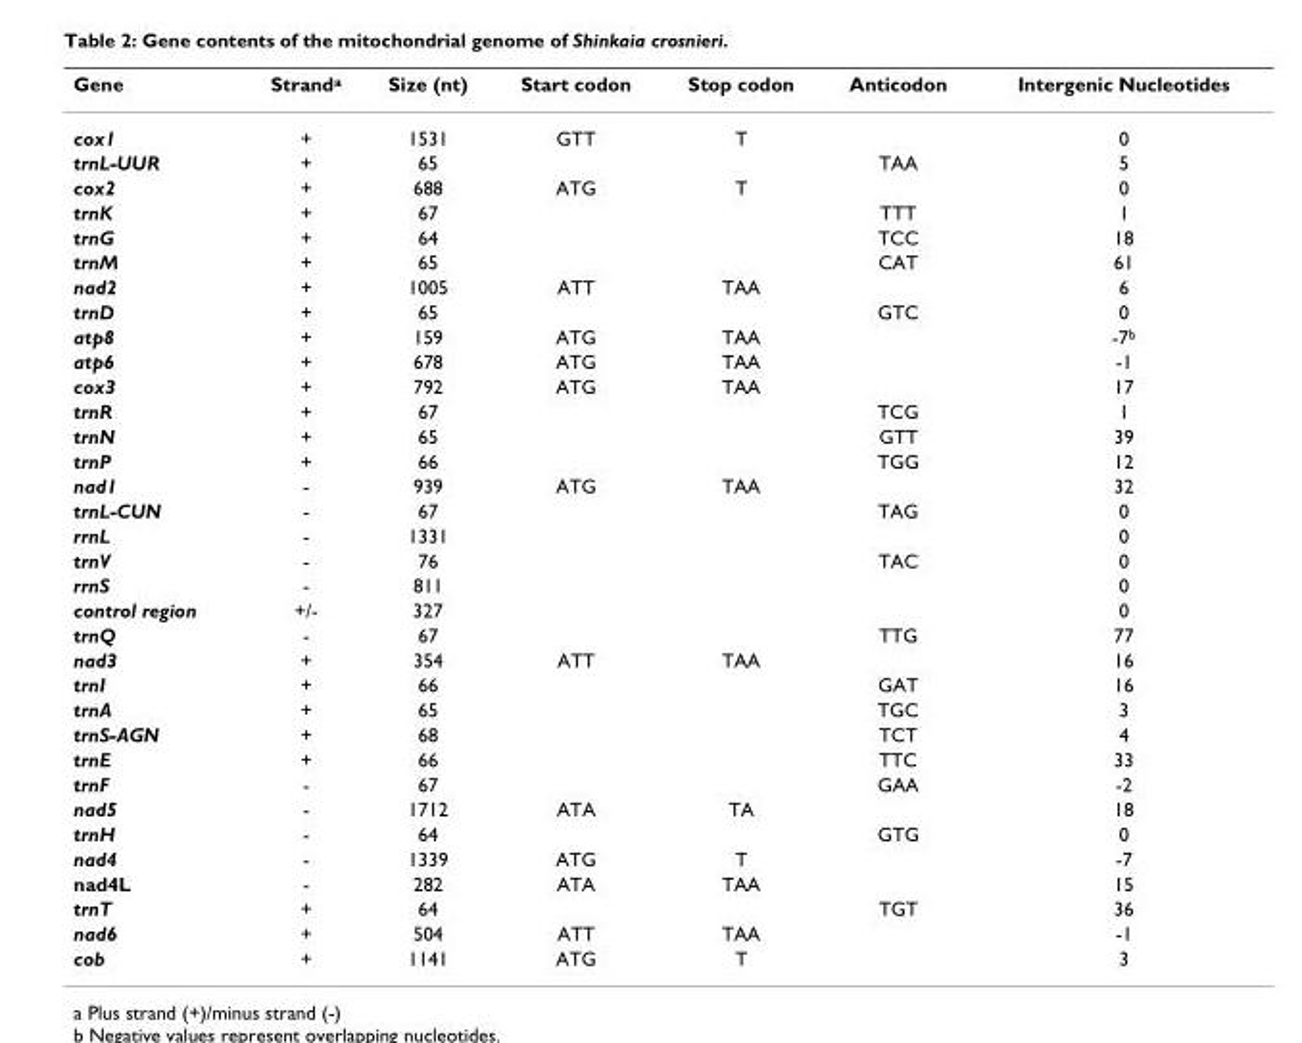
<table><thead><tr><td>Gene</td><td>Strand<sup>a</sup></td><td>Size (nt)</td><td>Start codon</td><td>Stop codon</td><td>Anticodon</td><td>Intergenic Nucleotides</td></tr></thead><tbody><tr><td>cox1</td><td>+</td><td>1531</td><td>GTT</td><td>T</td><td></td><td>0</td></tr><tr><td>trnL-UUR</td><td>+</td><td>65</td><td></td><td></td><td>TAA</td><td>5</td></tr><tr><td>cox2</td><td>+</td><td>688</td><td>ATG</td><td>T</td><td></td><td>0</td></tr><tr><td>trnK</td><td>+</td><td>67</td><td></td><td></td><td>TTT</td><td>1</td></tr><tr><td>trnG</td><td>+</td><td>64</td><td></td><td></td><td>TCC</td><td>18</td></tr><tr><td>trnM</td><td>+</td><td>65</td><td></td><td></td><td>CAT</td><td>61</td></tr><tr><td>nad2</td><td>+</td><td>1005</td><td>ATT</td><td>TAA</td><td></td><td>6</td></tr><tr><td>trnD</td><td>+</td><td>65</td><td></td><td></td><td>GTC</td><td>0</td></tr><tr><td>atp8</td><td>+</td><td>159</td><td>ATG</td><td>TAA</td><td></td><td>-7<sup>b</sup></td></tr><tr><td>atp6</td><td>+</td><td>678</td><td>ATG</td><td>TAA</td><td></td><td>-1</td></tr><tr><td>cox3</td><td>+</td><td>792</td><td>ATG</td><td>TAA</td><td></td><td>17</td></tr><tr><td>trnR</td><td>+</td><td>67</td><td></td><td></td><td>TCG</td><td>1</td></tr><tr><td>trnN</td><td>+</td><td>65</td><td></td><td></td><td>GTT</td><td>39</td></tr><tr><td>trnP</td><td>+</td><td>66</td><td></td><td></td><td>TGG</td><td>12</td></tr><tr><td>nad1</td><td>-</td><td>939</td><td>ATG</td><td>TAA</td><td></td><td>32</td></tr><tr><td>trnL-CUN</td><td>-</td><td>67</td><td></td><td></td><td>TAG</td><td>0</td></tr><tr><td>rrnL</td><td>-</td><td>1331</td><td></td><td></td><td></td><td>0</td></tr><tr><td>trnV</td><td>-</td><td>76</td><td></td><td></td><td>TAC</td><td>0</td></tr><tr><td>rrnS</td><td>-</td><td>811</td><td></td><td></td><td></td><td>0</td></tr><tr><td>control region</td><td>+/-</td><td>327</td><td></td><td></td><td></td><td>0</td></tr><tr><td>trnQ</td><td>-</td><td>67</td><td></td><td></td><td>TTG</td><td>77</td></tr><tr><td>nad3</td><td>+</td><td>354</td><td>ATT</td><td>TAA</td><td></td><td>16</td></tr><tr><td>trnI</td><td>+</td><td>66</td><td></td><td></td><td>GAT</td><td>16</td></tr><tr><td>trnA</td><td>+</td><td>65</td><td></td><td></td><td>TGC</td><td>3</td></tr><tr><td>trnS-AGN</td><td>+</td><td>68</td><td></td><td></td><td>TCT</td><td>4</td></tr><tr><td>trnE</td><td>+</td><td>66</td><td></td><td></td><td>TTC</td><td>33</td></tr><tr><td>trnF</td><td>-</td><td>67</td><td></td><td></td><td>GAA</td><td>-2</td></tr><tr><td>nad5</td><td>-</td><td>1712</td><td>ATA</td><td>TA</td><td></td><td>18</td></tr><tr><td>trnH</td><td>-</td><td>64</td><td></td><td></td><td>GTG</td><td>0</td></tr><tr><td>nad4</td><td>-</td><td>1339</td><td>ATG</td><td>T</td><td></td><td>-7</td></tr><tr><td>nad4L</td><td>-</td><td>282</td><td>ATA</td><td>TAA</td><td></td><td>15</td></tr><tr><td>trnT</td><td>+</td><td>64</td><td></td><td></td><td>TGT</td><td>36</td></tr><tr><td>nad6</td><td>+</td><td>504</td><td>ATT</td><td>TAA</td><td></td><td>-1</td></tr><tr><td>cob</td><td>+</td><td>1141</td><td>ATG</td><td>T</td><td></td><td>3</td></tr></tbody></table>